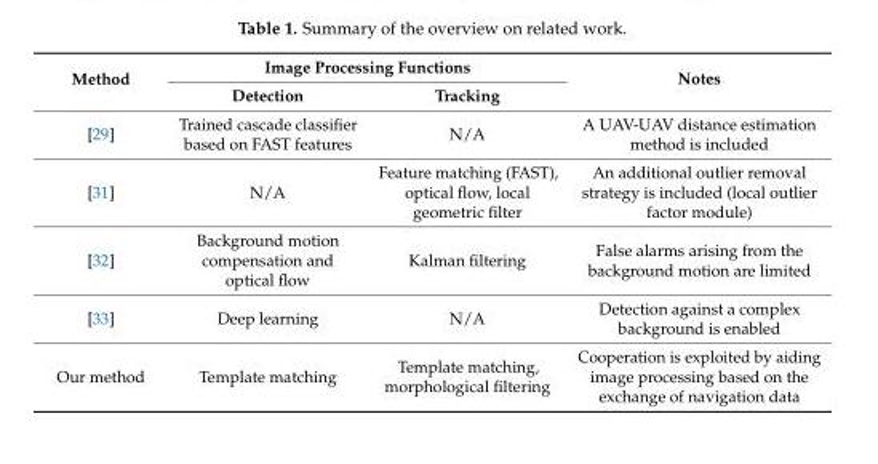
<table><thead><tr><td rowspan="2">Method</td><td colspan="2">Image Processing Functions</td><td rowspan="2">Notes</td></tr><tr><td>Detection</td><td>Tracking</td></tr></thead><tbody><tr><td>[29]</td><td>Trained cascade classifier based on FAST features</td><td>N/A</td><td>A UAV-UAV distance estimation method is included</td></tr><tr><td>[31]</td><td>N/A</td><td>Feature matching (FAST), optical flow, local geometric filter</td><td>An additional outlier removal strategy is included (local outlier factor module)</td></tr><tr><td>[32]</td><td>Background motion compensation and optical flow</td><td>Kalman filtering</td><td>False alarms arising from the background motion are limited</td></tr><tr><td>[33]</td><td>Deep learning</td><td>N/A</td><td>Detection against a complex background is enabled</td></tr><tr><td>Our method</td><td>Template matching</td><td>Template matching, morphological filtering</td><td>Cooperation is exploited by aiding image processing based on the exchange of navigation data</td></tr></tbody></table>